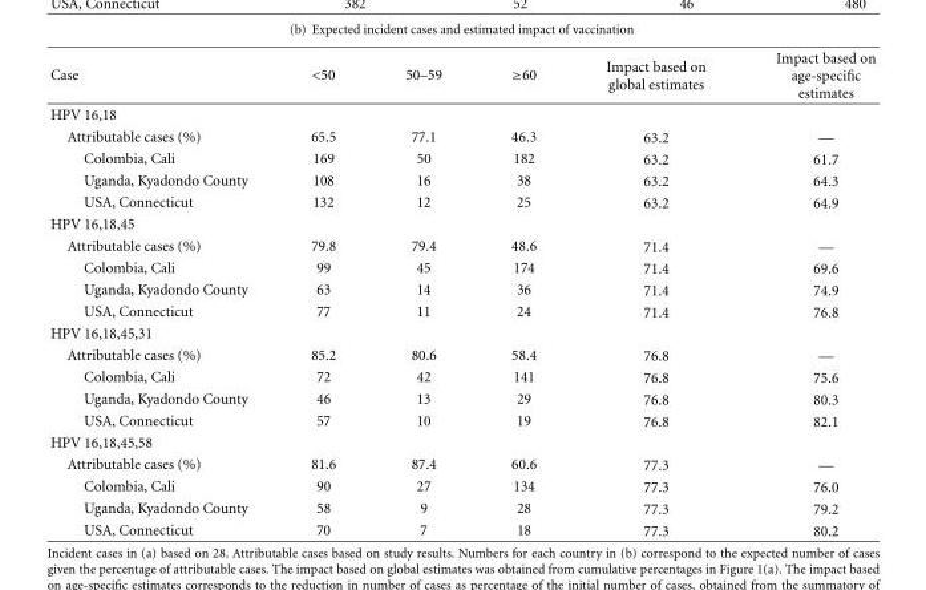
<table><thead><tr><td>Case</td><td>&lt;50</td><td>50–59</td><td>≥60</td><td>Impact based on global estimates</td><td>Impact based on age-specific estimates</td></tr></thead><tbody><tr><td colspan="6">HPV 16,18</td></tr><tr><td>Attributable cases (%)</td><td>65.5</td><td>77.1</td><td>46.3</td><td>63.2</td><td>—</td></tr><tr><td>Colombia, Cali</td><td>169</td><td>50</td><td>182</td><td>63.2</td><td>61.7</td></tr><tr><td>Uganda, Kyadondo County</td><td>108</td><td>16</td><td>38</td><td>63.2</td><td>64.3</td></tr><tr><td>USA, Connecticut</td><td>132</td><td>12</td><td>25</td><td>63.2</td><td>64.9</td></tr><tr><td colspan="6">HPV 16,18,45</td></tr><tr><td>Attributable cases (%)</td><td>79.8</td><td>79.4</td><td>48.6</td><td>71.4</td><td>—</td></tr><tr><td>Colombia, Cali</td><td>99</td><td>45</td><td>174</td><td>71.4</td><td>69.6</td></tr><tr><td>Uganda, Kyadondo County</td><td>63</td><td>14</td><td>36</td><td>71.4</td><td>74.9</td></tr><tr><td>USA, Connecticut</td><td>77</td><td>11</td><td>24</td><td>71.4</td><td>76.8</td></tr><tr><td colspan="6">HPV 16,18,45,31</td></tr><tr><td>Attributable cases (%)</td><td>85.2</td><td>80.6</td><td>58.4</td><td>76.8</td><td>—</td></tr><tr><td>Colombia, Cali</td><td>72</td><td>42</td><td>141</td><td>76.8</td><td>75.6</td></tr><tr><td>Uganda, Kyadondo County</td><td>46</td><td>13</td><td>29</td><td>76.8</td><td>80.3</td></tr><tr><td>USA, Connecticut</td><td>57</td><td>10</td><td>19</td><td>76.8</td><td>82.1</td></tr><tr><td colspan="6">HPV 16,18,45,58</td></tr><tr><td>Attributable cases (%)</td><td>81.6</td><td>87.4</td><td>60.6</td><td>77.3</td><td>—</td></tr><tr><td>Colombia, Cali</td><td>90</td><td>27</td><td>134</td><td>77.3</td><td>76.0</td></tr><tr><td>Uganda, Kyadondo County</td><td>58</td><td>9</td><td>28</td><td>77.3</td><td>79.2</td></tr><tr><td>USA, Connecticut</td><td>70</td><td>7</td><td>18</td><td>77.3</td><td>80.2</td></tr></tbody></table>